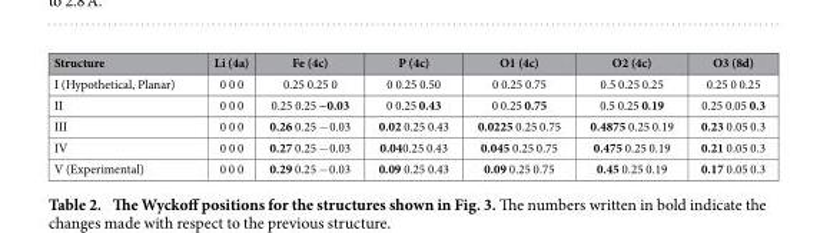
<table><thead><tr><td>Structure</td><td>Li (4a)</td><td>Fe (4c)</td><td>P (4c)</td><td>O1 (4c)</td><td>O2 (4c)</td><td>O3 (8d)</td></tr></thead><tbody><tr><td>I (Hypothetical, Planar)</td><td>0 0 0</td><td>0.25 0.25 0</td><td>0 0.25 0.50</td><td>0 0.25 0.75</td><td>0.5 0.25 0.25</td><td>0.25 0 0.25</td></tr><tr><td>II</td><td>0 0 0</td><td>0.25 0.25 − 0.03</td><td>0 0.25 0.43</td><td>0 0.25 0.75</td><td>0.5 0.25 0.19</td><td>0.25 0.05 0.3</td></tr><tr><td>III</td><td>0 0 0</td><td>0.26 0.25 − 0.03</td><td>0.02 0.25 0.43</td><td>0.0225 0.25 0.75</td><td>0.4875 0.25 0.19</td><td>0.23 0.05 0.3</td></tr><tr><td>IV</td><td>0 0 0</td><td>0.27 0.25 − 0.03</td><td>0.040.25 0.43</td><td>0.045 0.25 0.75</td><td>0.475 0.25 0.19</td><td>0.21 0.05 0.3</td></tr><tr><td>V (Experimental)</td><td>0 0 0</td><td>0.29 0.25 − 0.03</td><td>0.09 0.25 0.43</td><td>0.09 0.25 0.75</td><td>0.45 0.25 0.19</td><td>0.17 0.05 0.3</td></tr></tbody></table>